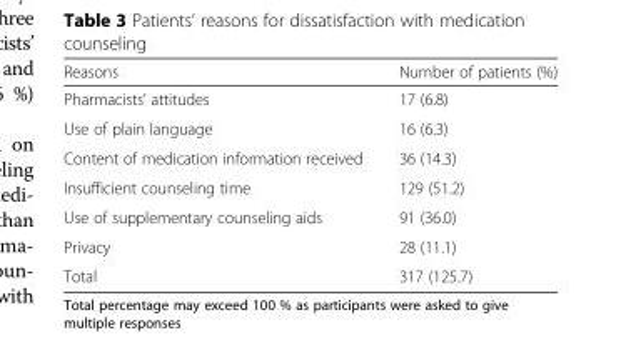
<table><thead><tr><td>Reasons</td><td>Number of patients (%)</td></tr></thead><tbody><tr><td>Pharmacists’ attitudes</td><td>17 (6.8)</td></tr><tr><td>Use of plain language</td><td>16 (6.3)</td></tr><tr><td>Content of medication information received</td><td>36 (14.3)</td></tr><tr><td>Insufficient counseling time</td><td>129 (51.2)</td></tr><tr><td>Use of supplementary counseling aids</td><td>91 (36.0)</td></tr><tr><td>Privacy</td><td>28 (11.1)</td></tr><tr><td>Total</td><td>317 (125.7)</td></tr></tbody></table>